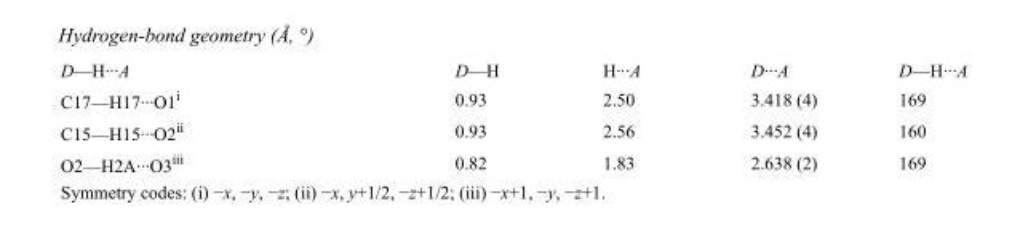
<table><tbody><tr><td>D—H···A</td><td>D—H</td><td>H···A</td><td>D···A</td><td>D—H···A</td></tr><tr><td>C17—H17···O1<sup>i</sup></td><td>0.93</td><td>2.50</td><td>3.418 (4)</td><td>169</td></tr><tr><td>C15—H15···O2<sup>ii</sup></td><td>0.93</td><td>2.56</td><td>3.452 (4)</td><td>160</td></tr><tr><td>O2—H2A···O3<sup>iii</sup></td><td>0.82</td><td>1.83</td><td>2.638 (2)</td><td>169</td></tr></tbody></table>